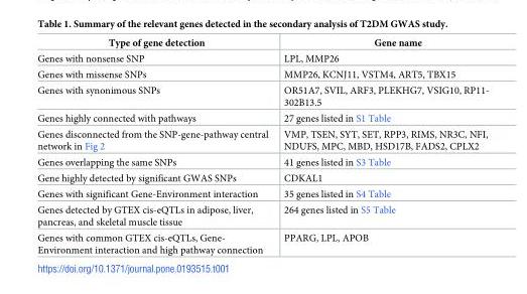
<table><thead><tr><td>Type of gene detection</td><td>Gene name</td></tr></thead><tbody><tr><td>Genes with nonsense SNP</td><td>LPL, MMP26</td></tr><tr><td>Genes with missense SNPs</td><td>MMP26, KCNJ11, VSTM4, ART5, TBX15</td></tr><tr><td>Genes with synonimous SNPs</td><td>OR51A7, SVIL, ARF3, PLEKHG7, VSIG10, RP11- 302B13.5</td></tr><tr><td>Genes highly connected with pathways</td><td>27 genes listed in S1 Table</td></tr><tr><td>Genes disconnected from the SNP-gene-pathway central network in Fig 2</td><td>VMP, TSEN, SYT, SET, RPP3, RIMS, NR3C, NFI, NDUFS, MPC, MBD, HSD17B, FADS2, CPLX2</td></tr><tr><td>Genes overlapping the same SNPs</td><td>41 genes listed in S3 Table</td></tr><tr><td>Gene highly detected by significant GWAS SNPs</td><td>CDKAL1</td></tr><tr><td>Genes with significant Gene-Environment interaction</td><td>35 genes listed in S4 Table</td></tr><tr><td>Genes detected by GTEX cis-eQTLs in adipose, liver, pancreas, and skeletal muscle tissue</td><td>264 genes listed in S5 Table</td></tr><tr><td>Genes with common GTEX cis-eQTLs, Gene- Environment interaction and high pathway connection</td><td>PPARG, LPL, APOB</td></tr></tbody></table>